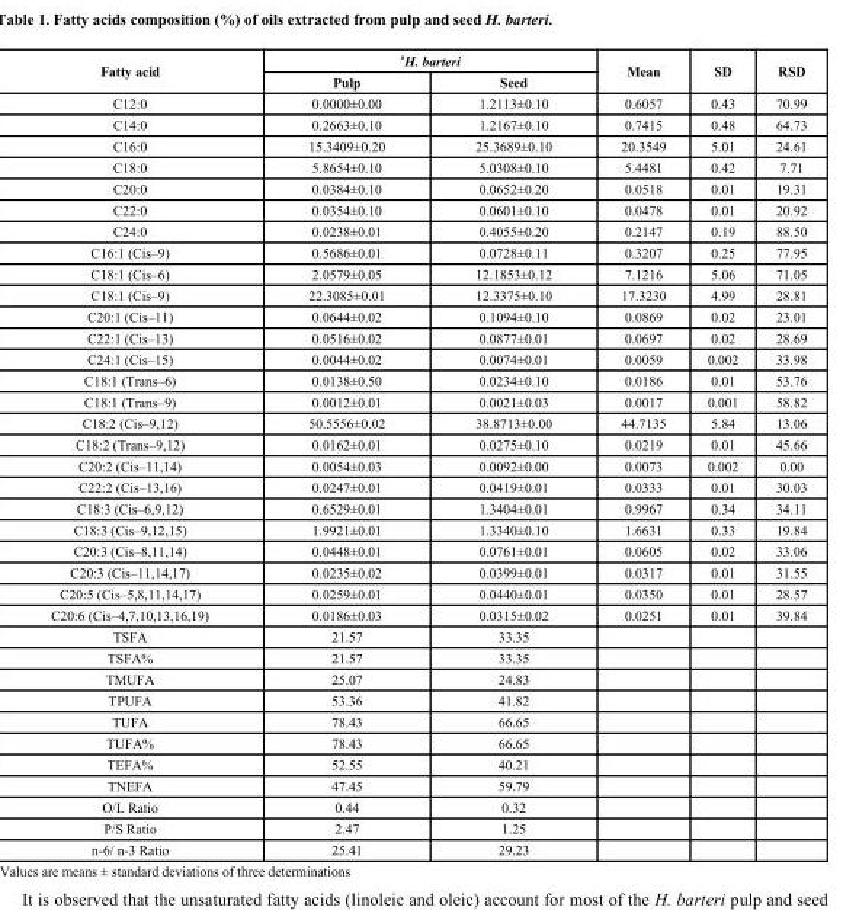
<table><thead><tr><td rowspan="2">Fatty acid</td><td colspan="2"><sup>a</sup>H. barteri</td><td rowspan="2">Mean</td><td rowspan="2">SD</td><td rowspan="2">RSD</td></tr><tr><td>Pulp</td><td>Seed</td></tr></thead><tbody><tr><td>C12:0</td><td>0.0000±0.00</td><td>1.2113±0.10</td><td>0.6057</td><td>0.43</td><td>70.99</td></tr><tr><td>C14:0</td><td>0.2663±0.10</td><td>1.2167±0.10</td><td>0.7415</td><td>0.48</td><td>64.73</td></tr><tr><td>C16:0</td><td>15.3409±0.20</td><td>25.3689±0.10</td><td>20.3549</td><td>5.01</td><td>24.61</td></tr><tr><td>C18:0</td><td>5.8654±0.10</td><td>5.0308±0.10</td><td>5.4481</td><td>0.42</td><td>7.71</td></tr><tr><td>C20:0</td><td>0.0384±0.10</td><td>0.0652±0.20</td><td>0.0518</td><td>0.01</td><td>19.31</td></tr><tr><td>C22:0</td><td>0.0354±0.10</td><td>0.0601±0.10</td><td>0.0478</td><td>0.01</td><td>20.92</td></tr><tr><td>C24:0</td><td>0.0238±0.01</td><td>0.4055±0.20</td><td>0.2147</td><td>0.19</td><td>88.50</td></tr><tr><td>C16:1 (Cis–9)</td><td>0.5686±0.01</td><td>0.0728±0.11</td><td>0.3207</td><td>0.25</td><td>77.95</td></tr><tr><td>C18:1 (Cis–6)</td><td>2.0579±0.05</td><td>12.1853±0.12</td><td>7.1216</td><td>5.06</td><td>71.05</td></tr><tr><td>C18:1 (Cis–9)</td><td>22.3085±0.01</td><td>12.3375±0.10</td><td>17.3230</td><td>4.99</td><td>28.81</td></tr><tr><td>C20:1 (Cis–11)</td><td>0.0644±0.02</td><td>0.1094±0.10</td><td>0.0869</td><td>0.02</td><td>23.01</td></tr><tr><td>C22:1 (Cis–13)</td><td>0.0516±0.02</td><td>0.0877±0.01</td><td>0.0697</td><td>0.02</td><td>28.69</td></tr><tr><td>C24:1 (Cis–15)</td><td>0.0044±0.02</td><td>0.0074±0.01</td><td>0.0059</td><td>0.002</td><td>33.98</td></tr><tr><td>C18:1 (Trans–6)</td><td>0.0138±0.50</td><td>0.0234±0.10</td><td>0.0186</td><td>0.01</td><td>53.76</td></tr><tr><td>C18:1 (Trans–9)</td><td>0.0012±0.01</td><td>0.0021±0.03</td><td>0.0017</td><td>0.001</td><td>58.82</td></tr><tr><td>C18:2 (Cis–9,12)</td><td>50.5556±0.02</td><td>38.8713±0.00</td><td>44.7135</td><td>5.84</td><td>13.06</td></tr><tr><td>C18:2 (Trans–9,12)</td><td>0.0162±0.01</td><td>0.0275±0.10</td><td>0.0219</td><td>0.01</td><td>45.66</td></tr><tr><td>C20:2 (Cis–11,14)</td><td>0.0054±0.03</td><td>0.0092±0.00</td><td>0.0073</td><td>0.002</td><td>0.00</td></tr><tr><td>C22:2 (Cis–13,16)</td><td>0.0247±0.01</td><td>0.0419±0.01</td><td>0.0333</td><td>0.01</td><td>30.03</td></tr><tr><td>C18:3 (Cis–6,9,12)</td><td>0.6529±0.01</td><td>1.3404±0.01</td><td>0.9967</td><td>0.34</td><td>34.11</td></tr><tr><td>C18:3 (Cis–9,12,15)</td><td>1.9921±0.01</td><td>1.3340±0.10</td><td>1.6631</td><td>0.33</td><td>19.84</td></tr><tr><td>C20:3 (Cis–8,11,14)</td><td>0.0448±0.01</td><td>0.0761±0.01</td><td>0.0605</td><td>0.02</td><td>33.06</td></tr><tr><td>C20:3 (Cis–11,14,17)</td><td>0.0235±0.02</td><td>0.0399±0.01</td><td>0.0317</td><td>0.01</td><td>31.55</td></tr><tr><td>C20:5 (Cis–5,8,11,14,17)</td><td>0.0259±0.01</td><td>0.0440±0.01</td><td>0.0350</td><td>0.01</td><td>28.57</td></tr><tr><td>C20:6 (Cis–4,7,10,13,16,19)</td><td>0.0186±0.03</td><td>0.0315±0.02</td><td>0.0251</td><td>0.01</td><td>39.84</td></tr><tr><td>TSFA</td><td>21.57</td><td>33.35</td><td></td><td></td><td></td></tr><tr><td>TSFA%</td><td>21.57</td><td>33.35</td><td></td><td></td><td></td></tr><tr><td>TMUFA</td><td>25.07</td><td>24.83</td><td></td><td></td><td></td></tr><tr><td>TPUFA</td><td>53.36</td><td>41.82</td><td></td><td></td><td></td></tr><tr><td>TUFA</td><td>78.43</td><td>66.65</td><td></td><td></td><td></td></tr><tr><td>TUFA%</td><td>78.43</td><td>66.65</td><td></td><td></td><td></td></tr><tr><td>TEFA%</td><td>52.55</td><td>40.21</td><td></td><td></td><td></td></tr><tr><td>TNEFA</td><td>47.45</td><td>59.79</td><td></td><td></td><td></td></tr><tr><td>O/L Ratio</td><td>0.44</td><td>0.32</td><td></td><td></td><td></td></tr><tr><td>P/S Ratio</td><td>2.47</td><td>1.25</td><td></td><td></td><td></td></tr><tr><td>n-6/ n-3 Ratio</td><td>25.41</td><td>29.23</td><td></td><td></td><td></td></tr></tbody></table>